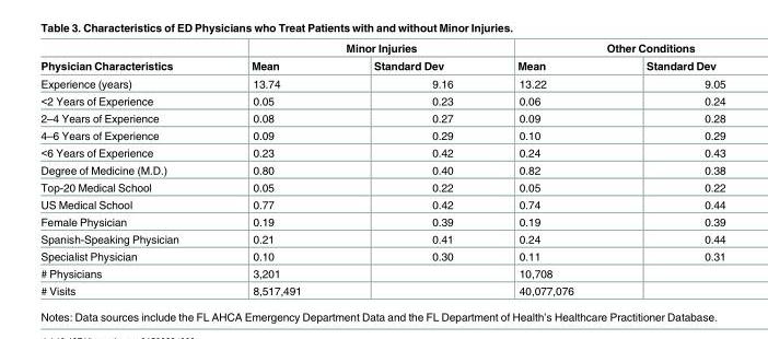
<table><thead><tr><td rowspan="2">Physician Characteristics</td><td colspan="2">Minor Injuries</td><td colspan="2">Other Conditions</td></tr><tr><td>Mean</td><td>Standard Dev</td><td>Mean</td><td>Standard Dev</td></tr></thead><tbody><tr><td>Experience (years)</td><td>13.74</td><td>9.16</td><td>13.22</td><td>9.05</td></tr><tr><td>&lt;2 Years of Experience</td><td>0.05</td><td>0.23</td><td>0.06</td><td>0.24</td></tr><tr><td>2–4 Years of Experience</td><td>0.08</td><td>0.27</td><td>0.09</td><td>0.28</td></tr><tr><td>4–6 Years of Experience</td><td>0.09</td><td>0.29</td><td>0.10</td><td>0.29</td></tr><tr><td>&lt;6 Years of Experience</td><td>0.23</td><td>0.42</td><td>0.24</td><td>0.43</td></tr><tr><td>Degree of Medicine (M.D.)</td><td>0.80</td><td>0.40</td><td>0.82</td><td>0.38</td></tr><tr><td>Top-20 Medical School</td><td>0.05</td><td>0.22</td><td>0.05</td><td>0.22</td></tr><tr><td>US Medical School</td><td>0.77</td><td>0.42</td><td>0.74</td><td>0.44</td></tr><tr><td>Female Physician</td><td>0.19</td><td>0.39</td><td>0.19</td><td>0.39</td></tr><tr><td>Spanish-Speaking Physician</td><td>0.21</td><td>0.41</td><td>0.24</td><td>0.44</td></tr><tr><td>Specialist Physician</td><td>0.10</td><td>0.30</td><td>0.11</td><td>0.31</td></tr><tr><td># Physicians</td><td>3,201</td><td></td><td>10,708</td><td></td></tr><tr><td># Visits</td><td>8,517,491</td><td></td><td>40,077,076</td><td></td></tr></tbody></table>